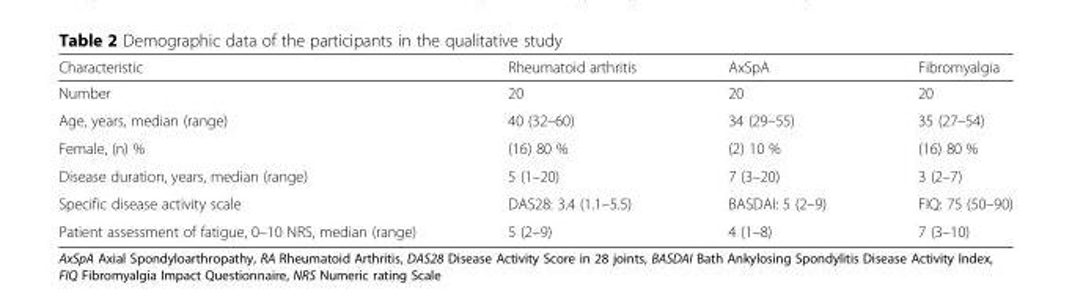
<table><thead><tr><td>Characteristic</td><td>Rheumatoid arthritis</td><td>AxSpA</td><td>Fibromyalgia</td></tr></thead><tbody><tr><td>Number</td><td>20</td><td>20</td><td>20</td></tr><tr><td>Age, years, median (range)</td><td>40 (32–60)</td><td>34 (29–55)</td><td>35 (27–54)</td></tr><tr><td>Female, (n) %</td><td>(16) 80 %</td><td>(2) 10 %</td><td>(16) 80 %</td></tr><tr><td>Disease duration, years, median (range)</td><td>5 (1–20)</td><td>7 (3–20)</td><td>3 (2–7)</td></tr><tr><td>Specific disease activity scale</td><td>DAS28: 3.4 (1.1–5.5)</td><td>BASDAI: 5 (2–9)</td><td>FIQ: 75 (50–90)</td></tr><tr><td>Patient assessment of fatigue, 0–10 NRS, median (range)</td><td>5 (2–9)</td><td>4 (1–8)</td><td>7 (3–10)</td></tr></tbody></table>